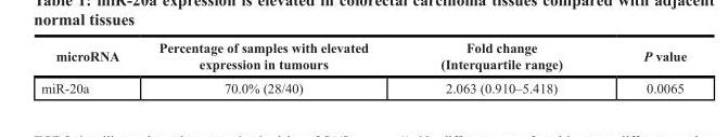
<table><thead><tr><td>microRNA</td><td>Percentage of samples with elevated expression in tumours</td><td>Fold change (Interquartile range)</td><td>P value</td></tr></thead><tbody><tr><td>miR-20a</td><td>70.0% (28/40)</td><td>2.063 (0.910–5.418)</td><td>0.0065</td></tr></tbody></table>